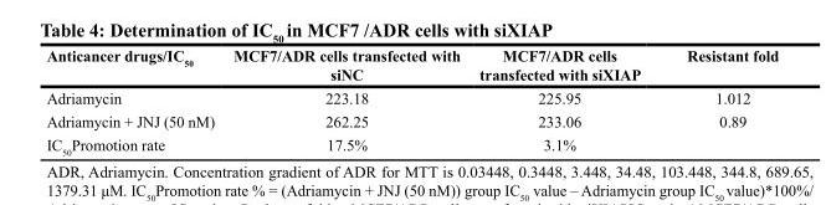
<table><thead><tr><td>Anticancer drugs/IC<sub>50</sub></td><td>MCF7/ADR cells transfected with siNC</td><td>MCF7/ADR cells transfected with siXIAP</td><td>Resistant fold</td></tr></thead><tbody><tr><td>Adriamycin</td><td>223.18</td><td>225.95</td><td>1.012</td></tr><tr><td>Adriamycin + JNJ (50 nM)</td><td>262.25</td><td>233.06</td><td>0.89</td></tr><tr><td>IC<sub>50</sub>Promotion rate</td><td>17.5%</td><td>3.1%</td><td></td></tr></tbody></table>